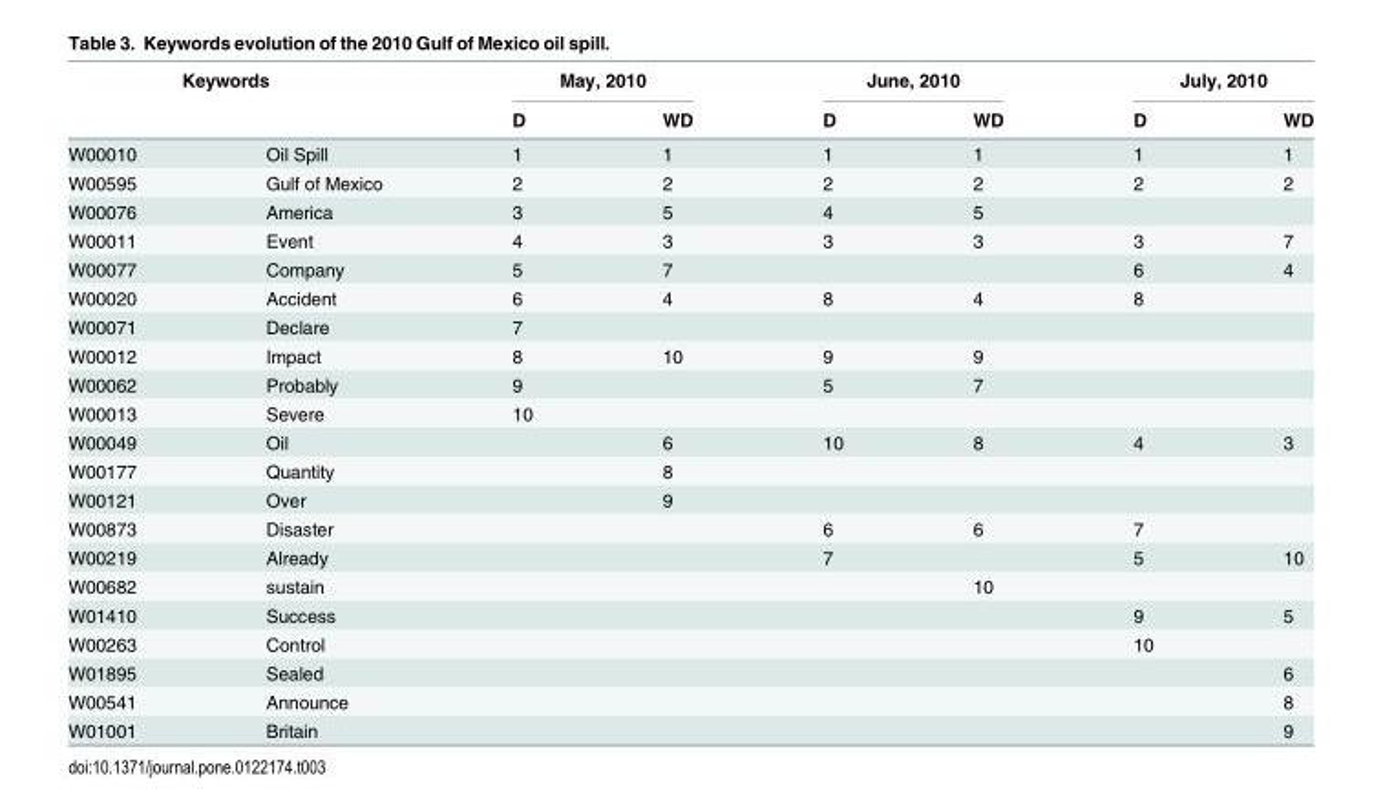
<table><thead><tr><td rowspan="2" colspan="2">Keywords</td><td colspan="2">May, 2010</td><td colspan="2">June, 2010</td><td colspan="2">July, 2010</td></tr><tr><td rowspan="2">D 1</td><td rowspan="2">WD 1</td><td rowspan="2">D 1</td><td rowspan="2">WD 1</td><td rowspan="2">D 1</td><td rowspan="2">WD 1</td></tr><tr><td>W00010</td><td>Oil Spill</td></tr></thead><tbody><tr><td>W00595</td><td>Gulf of Mexico</td><td>2</td><td>2</td><td>2</td><td>2</td><td>2</td><td>2</td></tr><tr><td>W00076</td><td>America</td><td>3</td><td>5</td><td>4</td><td>5</td><td></td><td></td></tr><tr><td>W00011</td><td>Event</td><td>4</td><td>3</td><td>3</td><td>3</td><td>3</td><td>7</td></tr><tr><td>W00077</td><td>Company</td><td>5</td><td>7</td><td></td><td></td><td>6</td><td>4</td></tr><tr><td>W00020</td><td>Accident</td><td>6</td><td>4</td><td>8</td><td>4</td><td>8</td><td></td></tr><tr><td>W00071</td><td>Declare</td><td>7</td><td></td><td></td><td></td><td></td><td></td></tr><tr><td>W00012</td><td>Impact</td><td>8</td><td>10</td><td>9</td><td>9</td><td></td><td></td></tr><tr><td>W00062</td><td>Probably</td><td>9</td><td></td><td>5</td><td>7</td><td></td><td></td></tr><tr><td>W00013</td><td>Severe</td><td>10</td><td></td><td></td><td></td><td></td><td></td></tr><tr><td>W00049</td><td>Oil</td><td></td><td>6</td><td>10</td><td>8</td><td>4</td><td>3</td></tr><tr><td>W00177</td><td>Quantity</td><td></td><td>8</td><td></td><td></td><td></td><td></td></tr><tr><td>W00121</td><td>Over</td><td></td><td>9</td><td></td><td></td><td></td><td></td></tr><tr><td>W00873</td><td>Disaster</td><td></td><td></td><td>6</td><td>6</td><td>7</td><td></td></tr><tr><td>W00219</td><td>Already</td><td></td><td></td><td>7</td><td></td><td>5</td><td>10</td></tr><tr><td>W00682</td><td>sustain</td><td></td><td></td><td></td><td>10</td><td></td><td></td></tr><tr><td>W01410</td><td>Success</td><td></td><td></td><td></td><td></td><td>9</td><td>5</td></tr><tr><td>W00263</td><td>Control</td><td></td><td></td><td></td><td></td><td>10</td><td></td></tr><tr><td>W01895</td><td>Sealed</td><td></td><td></td><td></td><td></td><td></td><td>6</td></tr><tr><td>W00541</td><td>Announce</td><td></td><td></td><td></td><td></td><td></td><td>8</td></tr><tr><td>W01001</td><td>Britain</td><td></td><td></td><td></td><td></td><td></td><td>9</td></tr></tbody></table>